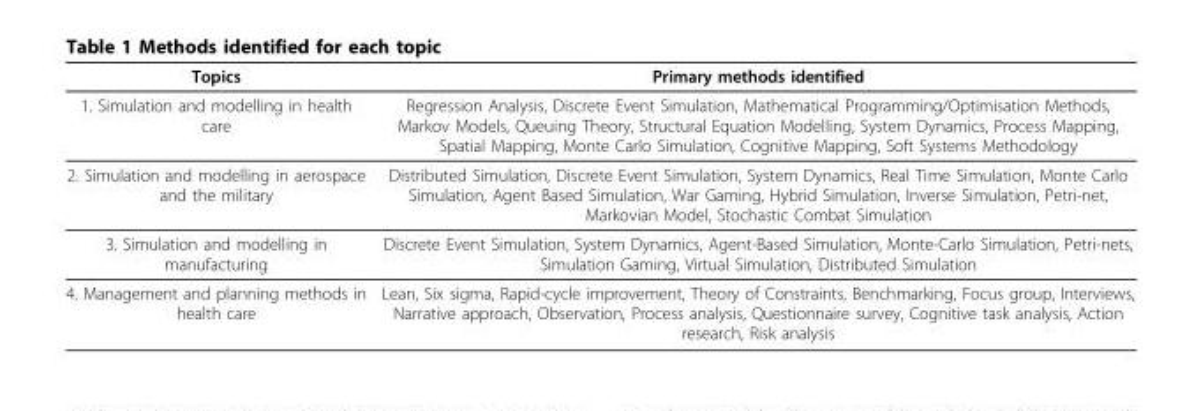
<table><thead><tr><td>Topics</td><td>Primary methods identified</td></tr></thead><tbody><tr><td>1. Simulation and modelling in health care</td><td>Regression Analysis, Discrete Event Simulation, Mathematical Programming/Optimisation Methods, Markov Models, Queuing Theory, Structural Equation Modelling, System Dynamics, Process Mapping, Spatial Mapping, Monte Carlo Simulation, Cognitive Mapping, Soft Systems Methodology</td></tr><tr><td>2. Simulation and modelling in aerospace and the military</td><td>Distributed Simulation, Discrete Event Simulation, System Dynamics, Real Time Simulation, Monte Carlo Simulation, Agent Based Simulation, War Gaming, Hybrid Simulation, Inverse Simulation, Petri-net, Markovian Model, Stochastic Combat Simulation</td></tr><tr><td>3. Simulation and modelling in manufacturing</td><td>Discrete Event Simulation, System Dynamics, Agent-Based Simulation, Monte-Carlo Simulation, Petri-nets, Simulation Gaming, Virtual Simulation, Distributed Simulation</td></tr><tr><td>4. Management and planning methods in health care</td><td>Lean, Six sigma, Rapid-cycle improvement, Theory of Constraints, Benchmarking, Focus group, Interviews, Narrative approach, Observation, Process analysis, Questionnaire survey, Cognitive task analysis, Action research, Risk analysis</td></tr></tbody></table>